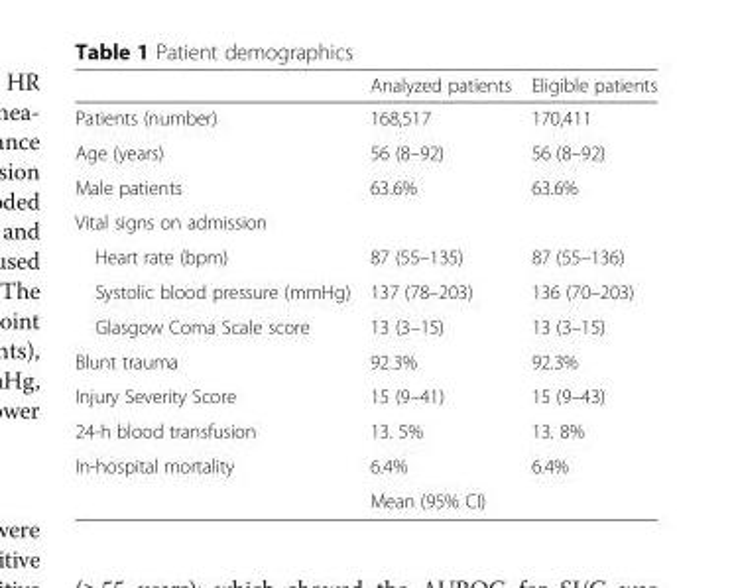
<table><thead><tr><td></td><td>Analyzed patients</td><td>Eligible patients</td></tr></thead><tbody><tr><td>Patients (number)</td><td>168,517</td><td>170,411</td></tr><tr><td>Age (years)</td><td>56 (8–92)</td><td>56 (8–92)</td></tr><tr><td>Male patients</td><td>63.6%</td><td>63.6%</td></tr><tr><td colspan="3">Vital signs on admission</td></tr><tr><td>Heart rate (bpm)</td><td>87 (55–135)</td><td>87 (55–136)</td></tr><tr><td>Systolic blood pressure (mmHg)</td><td>137 (78–203)</td><td>136 (70–203)</td></tr><tr><td>Glasgow Coma Scale score</td><td>13 (3–15)</td><td>13 (3–15)</td></tr><tr><td>Blunt trauma</td><td>92.3%</td><td>92.3%</td></tr><tr><td>Injury Severity Score</td><td>15 (9–41)</td><td>15 (9–43)</td></tr><tr><td>24-h blood transfusion</td><td>13. 5%</td><td>13. 8%</td></tr><tr><td rowspan="2">In-hospital mortality</td><td>6.4%</td><td>6.4%</td></tr><tr><td colspan="2">Mean (95% CI)</td></tr></tbody></table>